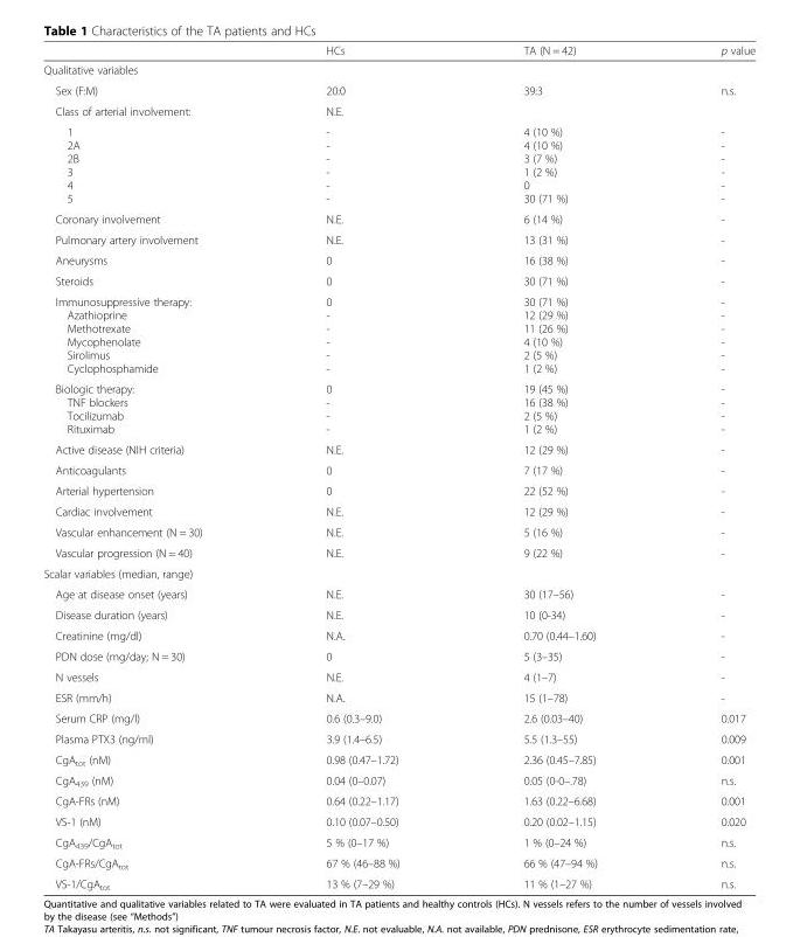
<table><thead><tr><td></td><td>HCs</td><td>TA (N = 42)</td><td>p value</td></tr></thead><tbody><tr><td colspan="4">Qualitative variables</td></tr><tr><td>Sex (F:M)</td><td>20:0</td><td>39:3</td><td>n.s.</td></tr><tr><td>Class of arterial involvement:</td><td>N.E.</td><td></td><td></td></tr><tr><td>1 2A 2B 3 4 5</td><td>- - - - - -</td><td>4 (10 %) 4 (10 %) 3 (7 %) 1 (2 %) 0 30 (71 %)</td><td>- - - - - -</td></tr><tr><td>Coronary involvement</td><td>N.E.</td><td>6 (14 %)</td><td>-</td></tr><tr><td>Pulmonary artery involvement</td><td>N.E.</td><td>13 (31 %)</td><td>-</td></tr><tr><td>Aneurysms</td><td>0</td><td>16 (38 %)</td><td>-</td></tr><tr><td>Steroids</td><td>0</td><td>30 (71 %)</td><td>-</td></tr><tr><td>Immunosuppressive therapy: Azathioprine Methotrexate Mycophenolate Sirolimus Cyclophosphamide</td><td>0 - - - - -</td><td>30 (71 %) 12 (29 %) 11 (26 %) 4 (10 %) 2 (5 %) 1 (2 %)</td><td>- - - - - -</td></tr><tr><td>Biologic therapy: TNF blockers Tocilizumab Rituximab</td><td>0 - - -</td><td>19 (45 %) 16 (38 %) 2 (5 %) 1 (2 %)</td><td>- - - -</td></tr><tr><td>Active disease (NIH criteria)</td><td>N.E.</td><td>12 (29 %)</td><td>-</td></tr><tr><td>Anticoagulants</td><td>0</td><td>7 (17 %)</td><td>-</td></tr><tr><td>Arterial hypertension</td><td>0</td><td>22 (52 %)</td><td>-</td></tr><tr><td>Cardiac involvement</td><td>N.E.</td><td>12 (29 %)</td><td>-</td></tr><tr><td>Vascular enhancement (N = 30)</td><td>N.E.</td><td>5 (16 %)</td><td>-</td></tr><tr><td>Vascular progression (N = 40)</td><td>N.E.</td><td>9 (22 %)</td><td>-</td></tr><tr><td colspan="4">Scalar variables (median, range)</td></tr><tr><td>Age at disease onset (years)</td><td>N.E.</td><td>30 (17–56)</td><td>-</td></tr><tr><td>Disease duration (years)</td><td>N.E.</td><td>10 (0-34)</td><td>-</td></tr><tr><td>Creatinine (mg/dl)</td><td>N.A.</td><td>0.70 (0.44–1.60)</td><td>-</td></tr><tr><td>PDN dose (mg/day; N = 30)</td><td>0</td><td>5 (3–35)</td><td>-</td></tr><tr><td>N vessels</td><td>N.E.</td><td>4 (1–7)</td><td>-</td></tr><tr><td>ESR (mm/h)</td><td>N.A.</td><td>15 (1–78)</td><td>-</td></tr><tr><td>Serum CRP (mg/l)</td><td>0.6 (0.3–9.0)</td><td>2.6 (0.03–40)</td><td>0.017</td></tr><tr><td>Plasma PTX3 (ng/ml)</td><td>3.9 (1.4–6.5)</td><td>5.5 (1.3–55)</td><td>0.009</td></tr><tr><td>CgA<sub>tot</sub> (nM)</td><td>0.98 (0.47–1.72)</td><td>2.36 (0.45–7.85)</td><td>0.001</td></tr><tr><td>CgA<sub>439</sub> (nM)</td><td>0.04 (0–0.07)</td><td>0.05 (0-0–.78)</td><td>n.s.</td></tr><tr><td>CgA-FRs (nM)</td><td>0.64 (0.22–1.17)</td><td>1.63 (0.22–6.68)</td><td>0.001</td></tr><tr><td>VS-1 (nM)</td><td>0.10 (0.07–0.50)</td><td>0.20 (0.02–1.15)</td><td>0.020</td></tr><tr><td>CgA<sub>439</sub>/CgA<sub>tot</sub></td><td>5 % (0–17 %)</td><td>1 % (0–24 %)</td><td>n.s.</td></tr><tr><td>CgA-FRs/CgA<sub>tot</sub></td><td>67 % (46–88 %)</td><td>66 % (47–94 %)</td><td>n.s.</td></tr><tr><td>VS-1/CgA<sub>tot</sub></td><td>13 % (7–29 %)</td><td>11 % (1–27 %)</td><td>n.s.</td></tr></tbody></table>